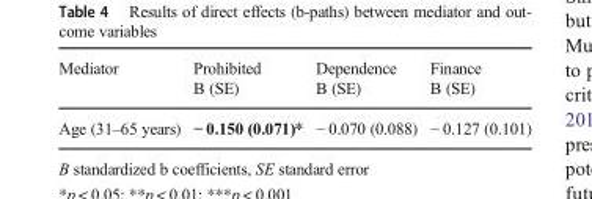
<table><thead><tr><td>Mediator</td><td>Prohibited B (SE)</td><td>Dependence B (SE)</td><td>Finance B (SE)</td></tr></thead><tbody><tr><td>Age (31–65 years)</td><td>− 0.150 (0.071)*</td><td>− 0.070 (0.088)</td><td>− 0.127 (0.101)</td></tr></tbody></table>